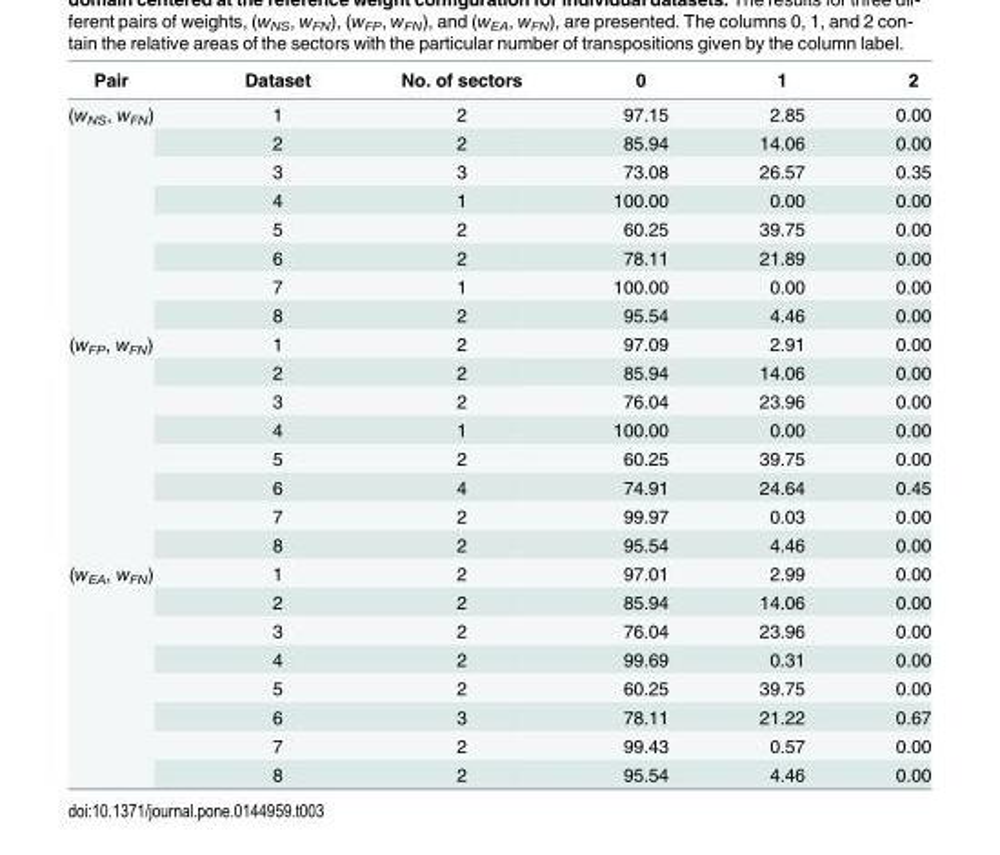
<table><thead><tr><td>Pair</td><td>Dataset</td><td>No. of sectors</td><td>0</td><td>1</td><td>2</td></tr></thead><tbody><tr><td rowspan="8">(w<sub>NS</sub>, w<sub>FN</sub>)</td><td>1</td><td>2</td><td>97.15</td><td>2.85</td><td>0.00</td></tr><tr><td>2</td><td>2</td><td>85.94</td><td>14.06</td><td>0.00</td></tr><tr><td>3</td><td>3</td><td>73.08</td><td>26.57</td><td>0.35</td></tr><tr><td>4</td><td>1</td><td>100.00</td><td>0.00</td><td>0.00</td></tr><tr><td>5</td><td>2</td><td>60.25</td><td>39.75</td><td>0.00</td></tr><tr><td>6</td><td>2</td><td>78.11</td><td>21.89</td><td>0.00</td></tr><tr><td>7</td><td>1</td><td>100.00</td><td>0.00</td><td>0.00</td></tr><tr><td>8</td><td>2</td><td>95.54</td><td>4.46</td><td>0.00</td></tr><tr><td rowspan="8">(w<sub>FP</sub>, w<sub>FN</sub>)</td><td>1</td><td>2</td><td>97.09</td><td>2.91</td><td>0.00</td></tr><tr><td>2</td><td>2</td><td>85.94</td><td>14.06</td><td>0.00</td></tr><tr><td>3</td><td>2</td><td>76.04</td><td>23.96</td><td>0.00</td></tr><tr><td>4</td><td>1</td><td>100.00</td><td>0.00</td><td>0.00</td></tr><tr><td>5</td><td>2</td><td>60.25</td><td>39.75</td><td>0.00</td></tr><tr><td>6</td><td>4</td><td>74.91</td><td>24.64</td><td>0.45</td></tr><tr><td>7</td><td>2</td><td>99.97</td><td>0.03</td><td>0.00</td></tr><tr><td>8</td><td>2</td><td>95.54</td><td>4.46</td><td>0.00</td></tr><tr><td rowspan="8">(w<sub>EA</sub>, w<sub>FN</sub>)</td><td>1</td><td>2</td><td>97.01</td><td>2.99</td><td>0.00</td></tr><tr><td>2</td><td>2</td><td>85.94</td><td>14.06</td><td>0.00</td></tr><tr><td>3</td><td>2</td><td>76.04</td><td>23.96</td><td>0.00</td></tr><tr><td>4</td><td>2</td><td>99.69</td><td>0.31</td><td>0.00</td></tr><tr><td>5</td><td>2</td><td>60.25</td><td>39.75</td><td>0.00</td></tr><tr><td>6</td><td>3</td><td>78.11</td><td>21.22</td><td>0.67</td></tr><tr><td>7</td><td>2</td><td>99.43</td><td>0.57</td><td>0.00</td></tr><tr><td>8</td><td>2</td><td>95.54</td><td>4.46</td><td>0.00</td></tr></tbody></table>